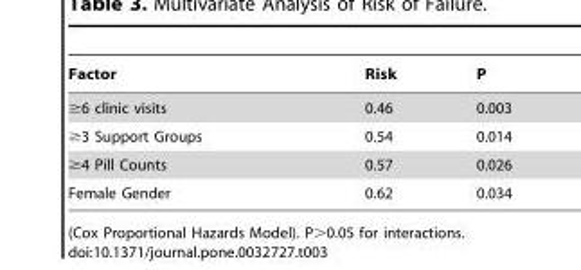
<table><thead><tr><td>Factor</td><td>Risk</td><td>P</td></tr></thead><tbody><tr><td>≥6 clinic visits</td><td>0.46</td><td>0.003</td></tr><tr><td>≥3 Support Groups</td><td>0.54</td><td>0.014</td></tr><tr><td>≥4 Pill Counts</td><td>0.57</td><td>0.026</td></tr><tr><td>Female Gender</td><td>0.62</td><td>0.034</td></tr></tbody></table>